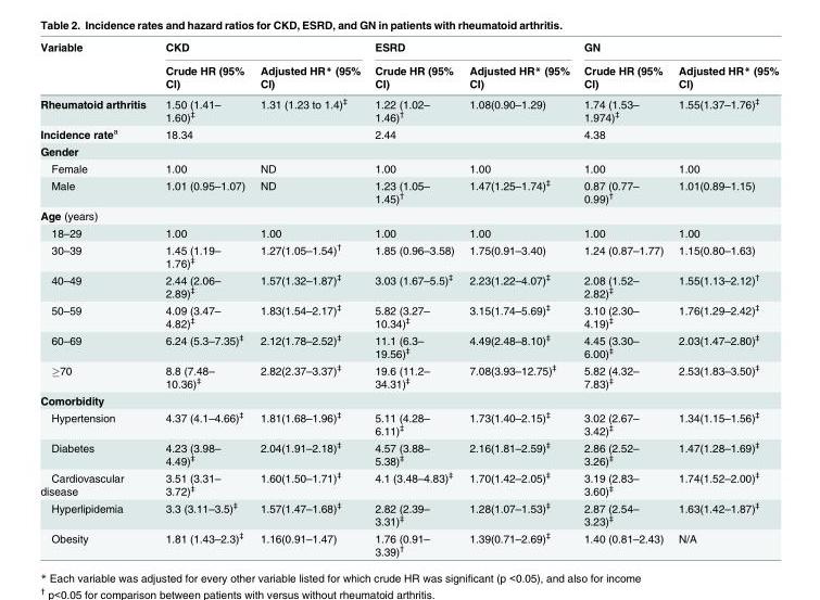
<table><thead><tr><td rowspan="2">Variable</td><td colspan="2">CKD</td><td colspan="2">ESRD</td><td colspan="2">GN</td></tr><tr><td>Crude HR (95% CI)</td><td>Adjusted HR* (95% CI)</td><td>Crude HR (95% CI)</td><td>Adjusted HR* (95% CI)</td><td>Crude HR (95% CI)</td><td>Adjusted HR* (95% CI)</td></tr></thead><tbody><tr><td>Rheumatoid arthritis</td><td>1.50 (1.41– 1.60)<sup>‡</sup></td><td>1.31 (1.23 to 1.4)<sup>‡</sup></td><td>1.22 (1.02– 1.46)<sup>†</sup></td><td>1.08(0.90–1.29)</td><td>1.74 (1.53– 1.974)<sup>‡</sup></td><td>1.55(1.37–1.76)<sup>‡</sup></td></tr><tr><td>Incidence rate<sup>a</sup></td><td>18.34</td><td></td><td>2.44</td><td></td><td>4.38</td><td></td></tr><tr><td colspan="7">Gender</td></tr><tr><td>Female</td><td>1.00</td><td>ND</td><td>1.00</td><td>1.00</td><td>1.00</td><td>1.00</td></tr><tr><td>Male</td><td>1.01 (0.95–1.07)</td><td>ND</td><td>1.23 (1.05– 1.45)<sup>†</sup></td><td>1.47(1.25–1.74)<sup>‡</sup></td><td>0.87 (0.77– 0.99)<sup>†</sup></td><td>1.01(0.89–1.15)</td></tr><tr><td colspan="7">Age (years)</td></tr><tr><td>18–29</td><td>1.00</td><td>1.00</td><td>1.00</td><td>1.00</td><td>1.00</td><td>1.00</td></tr><tr><td>30–39</td><td>1.45 (1.19– 1.76)<sup>‡</sup></td><td>1.27(1.05–1.54)<sup>†</sup></td><td>1.85 (0.96–3.58)</td><td>1.75(0.91–3.40)</td><td>1.24 (0.87–1.77)</td><td>1.15(0.80–1.63)</td></tr><tr><td>40–49</td><td>2.44 (2.06– 2.89)<sup>‡</sup></td><td>1.57(1.32–1.87)<sup>‡</sup></td><td>3.03 (1.67–5.5)<sup>‡</sup></td><td>2.23(1.22–4.07)<sup>‡</sup></td><td>2.08 (1.52– 2.82)<sup>‡</sup></td><td>1.55(1.13–2.12)<sup>†</sup></td></tr><tr><td>50–59</td><td>4.09 (3.47– 4.82)<sup>‡</sup></td><td>1.83(1.54–2.17)<sup>‡</sup></td><td>5.82 (3.27– 10.34)<sup>‡</sup></td><td>3.15(1.74–5.69)<sup>‡</sup></td><td>3.10 (2.30– 4.19)<sup>‡</sup></td><td>1.76(1.29–2.42)<sup>‡</sup></td></tr><tr><td>60–69</td><td>6.24 (5.3–7.35)<sup>‡</sup></td><td>2.12(1.78–2.52)<sup>‡</sup></td><td>11.1 (6.3– 19.56)<sup>‡</sup></td><td>4.49(2.48–8.10)<sup>‡</sup></td><td>4.45 (3.30– 6.00)<sup>‡</sup></td><td>2.03(1.47–2.80)<sup>‡</sup></td></tr><tr><td>≥70</td><td>8.8 (7.48– 10.36)<sup>‡</sup></td><td>2.82(2.37–3.37)<sup>‡</sup></td><td>19.6 (11.2– 34.31)<sup>‡</sup></td><td>7.08(3.93–12.75)<sup>‡</sup></td><td>5.82 (4.32– 7.83)<sup>‡</sup></td><td>2.53(1.83–3.50)<sup>‡</sup></td></tr><tr><td colspan="7">Comorbidity</td></tr><tr><td>Hypertension</td><td>4.37 (4.1–4.66)<sup>‡</sup></td><td>1.81(1.68–1.96)<sup>‡</sup></td><td>5.11 (4.28– 6.11)<sup>‡</sup></td><td>1.73(1.40–2.15)<sup>‡</sup></td><td>3.02 (2.67– 3.42)<sup>‡</sup></td><td>1.34(1.15–1.56)<sup>‡</sup></td></tr><tr><td>Diabetes</td><td>4.23 (3.98– 4.49)<sup>‡</sup></td><td>2.04(1.91–2.18)<sup>‡</sup></td><td>4.57 (3.88– 5.38)<sup>‡</sup></td><td>2.16(1.81–2.59)<sup>‡</sup></td><td>2.86 (2.52– 3.26)<sup>‡</sup></td><td>1.47(1.28–1.69)<sup>‡</sup></td></tr><tr><td>Cardiovascular disease</td><td>3.51 (3.31– 3.72)<sup>‡</sup></td><td>1.60(1.50–1.71)<sup>‡</sup></td><td>4.1 (3.48–4.83)<sup>‡</sup></td><td>1.70(1.42–2.05)<sup>‡</sup></td><td>3.19 (2.83– 3.60)<sup>‡</sup></td><td>1.74(1.52–2.00)<sup>‡</sup></td></tr><tr><td>Hyperlipidemia</td><td>3.3 (3.11–3.5)<sup>‡</sup></td><td>1.57(1.47–1.68)<sup>‡</sup></td><td>2.82 (2.39– 3.31)<sup>‡</sup></td><td>1.28(1.07–1.53)<sup>‡</sup></td><td>2.87 (2.54– 3.23)<sup>‡</sup></td><td>1.63(1.42–1.87)<sup>‡</sup></td></tr><tr><td>Obesity</td><td>1.81 (1.43–2.3)<sup>‡</sup></td><td>1.16(0.91–1.47)</td><td>1.76 (0.91– 3.39)<sup>†</sup></td><td>1.39(0.71–2.69)<sup>‡</sup></td><td>1.40 (0.81–2.43)</td><td>N/A</td></tr></tbody></table>